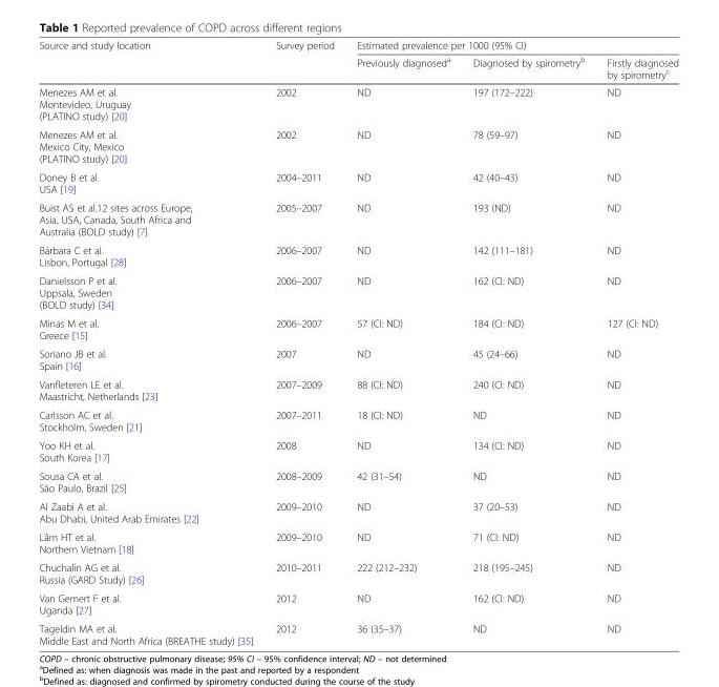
<table><thead><tr><td rowspan="2">Source and study location</td><td rowspan="2">Survey period</td><td colspan="3">Estimated prevalence per 1000 (95% CI)</td></tr><tr><td>Previously diagnosed<sup>a</sup></td><td>Diagnosed by spirometry<sup>b</sup></td><td>Firstly diagnosed by spirometry<sup>c</sup></td></tr></thead><tbody><tr><td>Menezes AM et al. Montevideo, Uruguay (PLATINO study) [20]</td><td>2002</td><td>ND</td><td>197 (172–222)</td><td>ND</td></tr><tr><td>Menezes AM et al. Mexico City, Mexico (PLATINO study) [20]</td><td>2002</td><td>ND</td><td>78 (59–97)</td><td>ND</td></tr><tr><td>Doney B et al. USA [19]</td><td>2004–2011</td><td>ND</td><td>42 (40–43)</td><td>ND</td></tr><tr><td>Buist AS et al.12 sites across Europe, Asia, USA, Canada, South Africa and Australia (BOLD study) [7]</td><td>2005–2007</td><td>ND</td><td>193 (ND)</td><td>ND</td></tr><tr><td>Bárbara C et al. Lisbon, Portugal [28]</td><td>2006–2007</td><td>ND</td><td>142 (111–181)</td><td>ND</td></tr><tr><td>Danielsson P et al. Uppsala, Sweden (BOLD study) [34]</td><td>2006–2007</td><td>ND</td><td>162 (CI: ND)</td><td>ND</td></tr><tr><td>Minas M et al. Greece [15]</td><td>2006–2007</td><td>57 (CI: ND)</td><td>184 (CI: ND)</td><td>127 (CI: ND)</td></tr><tr><td>Soriano JB et al. Spain [16]</td><td>2007</td><td>ND</td><td>45 (24–66)</td><td>ND</td></tr><tr><td>Vanfleteren LE et al. Maastricht, Netherlands [23]</td><td>2007–2009</td><td>88 (CI: ND)</td><td>240 (CI: ND)</td><td>ND</td></tr><tr><td>Carlsson AC et al. Stockholm, Sweden [21]</td><td>2007–2011</td><td>18 (CI: ND)</td><td>ND</td><td>ND</td></tr><tr><td>Yoo KH et al. South Korea [17]</td><td>2008</td><td>ND</td><td>134 (CI: ND)</td><td>ND</td></tr><tr><td>Sousa CA et al. São Paulo, Brazil [25]</td><td>2008–2009</td><td>42 (31–54)</td><td>ND</td><td>ND</td></tr><tr><td>Al Zaabi A et al. Abu Dhabi, United Arab Emirates [22]</td><td>2009–2010</td><td>ND</td><td>37 (20–53)</td><td>ND</td></tr><tr><td>Lâm HT et al. Northern Vietnam [18]</td><td>2009–2010</td><td>ND</td><td>71 (CI: ND)</td><td>ND</td></tr><tr><td>Chuchalin AG et al. Russia (GARD Study) [26]</td><td>2010–2011</td><td>222 (212–232)</td><td>218 (195–245)</td><td>ND</td></tr><tr><td>Van Gemert F et al. Uganda [27]</td><td>2012</td><td>ND</td><td>162 (CI: ND)</td><td>ND</td></tr><tr><td>Tageldin MA et al. Middle East and North Africa (BREATHE study) [35]</td><td>2012</td><td>36 (35–37)</td><td>ND</td><td>ND</td></tr></tbody></table>